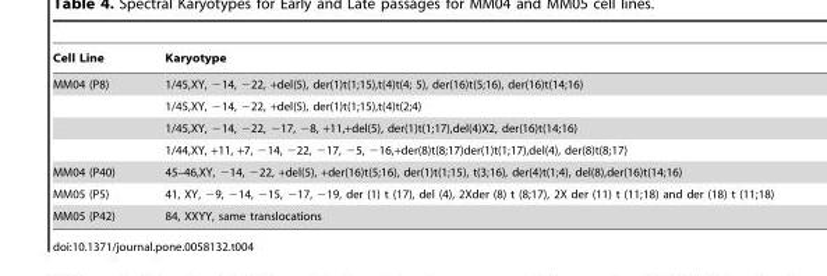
<table><thead><tr><td>Cell Line</td><td>Karyotype</td></tr></thead><tbody><tr><td rowspan="4">MM04 (P8)</td><td>1/45,XY, −14, −22, +del(5), der(1)t(1;15),t(4)t(4; 5), der(16)t(5;16), der(16)t(14;16)</td></tr><tr><td>1/45,XY, −14, −22, +del(5), der(1)t(1;15),t(4)t(2;4)</td></tr><tr><td>1/45,XY, −14, −22, −17, −8, +11,+del(5), der(1)t(1;17),del(4)X2, der(16)t(14;16)</td></tr><tr><td>1/44,XY, +11, +7, −14, −22, −17, −5, −16,+der(8)t(8;17)der(1)t(1;17),del(4), der(8)t(8;17)</td></tr><tr><td>MM04 (P40)</td><td>45–46,XY, −14, −22, +del(5), +der(16)t(5;16), der(1)t(1;15), t(3;16), der(4)t(1;4), del(8),der(16)t(14;16)</td></tr><tr><td>MM05 (P5)</td><td>41, XY, −9, −14, −15, −17, −19, der (1) t (17), del (4), 2Xder (8) t (8;17), 2X der (11) t (11;18) and der (18) t (11;18)</td></tr><tr><td>MM05 (P42)</td><td>84, XXYY, same translocations</td></tr></tbody></table>